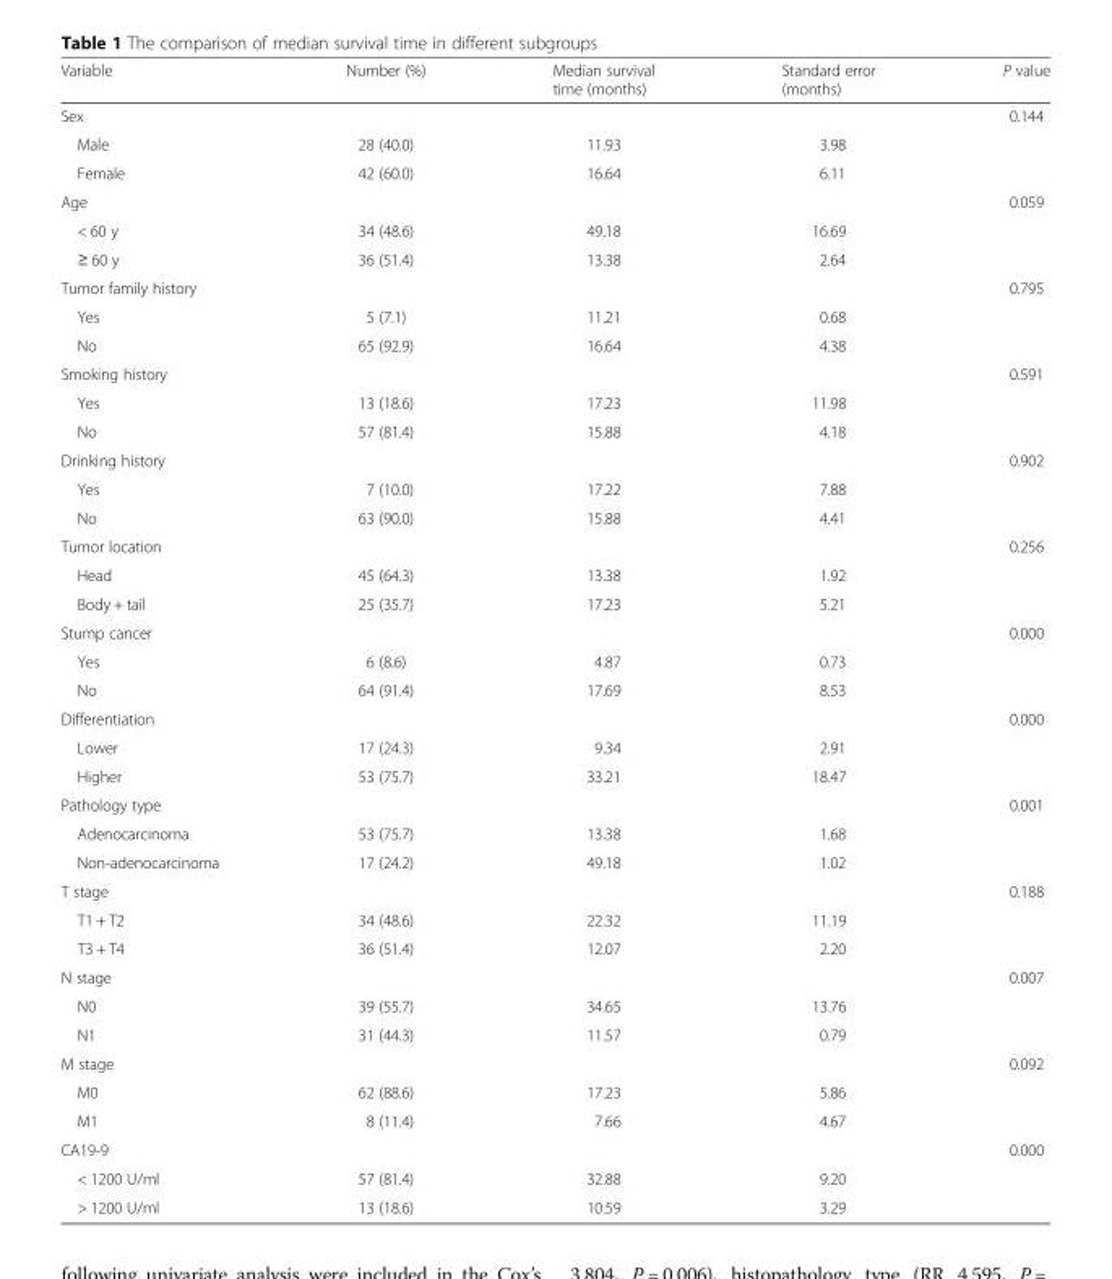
<table><thead><tr><td>Variable</td><td>Number (%)</td><td>Median survival time (months)</td><td>Standard error (months)</td><td>P value</td></tr></thead><tbody><tr><td>Sex</td><td></td><td></td><td></td><td>0.144</td></tr><tr><td>Male</td><td>28 (40.0)</td><td>11.93</td><td>3.98</td><td></td></tr><tr><td>Female</td><td>42 (60.0)</td><td>16.64</td><td>6.11</td><td></td></tr><tr><td>Age</td><td></td><td></td><td></td><td>0.059</td></tr><tr><td>&lt; 60 y</td><td>34 (48.6)</td><td>49.18</td><td>16.69</td><td></td></tr><tr><td>≥ 60 y</td><td>36 (51.4)</td><td>13.38</td><td>2.64</td><td></td></tr><tr><td>Tumor family history</td><td></td><td></td><td></td><td>0.795</td></tr><tr><td>Yes</td><td>5 (7.1)</td><td>11.21</td><td>0.68</td><td></td></tr><tr><td>No</td><td>65 (92.9)</td><td>16.64</td><td>4.38</td><td></td></tr><tr><td>Smoking history</td><td></td><td></td><td></td><td>0.591</td></tr><tr><td>Yes</td><td>13 (18.6)</td><td>17.23</td><td>11.98</td><td></td></tr><tr><td>No</td><td>57 (81.4)</td><td>15.88</td><td>4.18</td><td></td></tr><tr><td>Drinking history</td><td></td><td></td><td></td><td>0.902</td></tr><tr><td>Yes</td><td>7 (10.0)</td><td>17.22</td><td>7.88</td><td></td></tr><tr><td>No</td><td>63 (90.0)</td><td>15.88</td><td>4.41</td><td></td></tr><tr><td>Tumor location</td><td></td><td></td><td></td><td>0.256</td></tr><tr><td>Head</td><td>45 (64.3)</td><td>13.38</td><td>1.92</td><td></td></tr><tr><td>Body + tail</td><td>25 (35.7)</td><td>17.23</td><td>5.21</td><td></td></tr><tr><td>Stump cancer</td><td></td><td></td><td></td><td>0.000</td></tr><tr><td>Yes</td><td>6 (8.6)</td><td>4.87</td><td>0.73</td><td></td></tr><tr><td>No</td><td>64 (91.4)</td><td>17.69</td><td>8.53</td><td></td></tr><tr><td>Differentiation</td><td></td><td></td><td></td><td>0.000</td></tr><tr><td>Lower</td><td>17 (24.3)</td><td>9.34</td><td>2.91</td><td></td></tr><tr><td>Higher</td><td>53 (75.7)</td><td>33.21</td><td>18.47</td><td></td></tr><tr><td>Pathology type</td><td></td><td></td><td></td><td>0.001</td></tr><tr><td>Adenocarcinoma</td><td>53 (75.7)</td><td>13.38</td><td>1.68</td><td></td></tr><tr><td>Non-adenocarcinoma</td><td>17 (24.2)</td><td>49.18</td><td>1.02</td><td></td></tr><tr><td>T stage</td><td></td><td></td><td></td><td>0.188</td></tr><tr><td>T1 + T2</td><td>34 (48.6)</td><td>22.32</td><td>11.19</td><td></td></tr><tr><td>T3 + T4</td><td>36 (51.4)</td><td>12.07</td><td>2.20</td><td></td></tr><tr><td>N stage</td><td></td><td></td><td></td><td>0.007</td></tr><tr><td>N0</td><td>39 (55.7)</td><td>34.65</td><td>13.76</td><td></td></tr><tr><td>N1</td><td>31 (44.3)</td><td>11.57</td><td>0.79</td><td></td></tr><tr><td>M stage</td><td></td><td></td><td></td><td>0.092</td></tr><tr><td>M0</td><td>62 (88.6)</td><td>17.23</td><td>5.86</td><td></td></tr><tr><td>M1</td><td>8 (11.4)</td><td>7.66</td><td>4.67</td><td></td></tr><tr><td>CA19-9</td><td></td><td></td><td></td><td>0.000</td></tr><tr><td>&lt; 1200 U/ml</td><td>57 (81.4)</td><td>32.88</td><td>9.20</td><td></td></tr><tr><td>&gt; 1200 U/ml</td><td>13 (18.6)</td><td>10.59</td><td>3.29</td><td></td></tr></tbody></table>